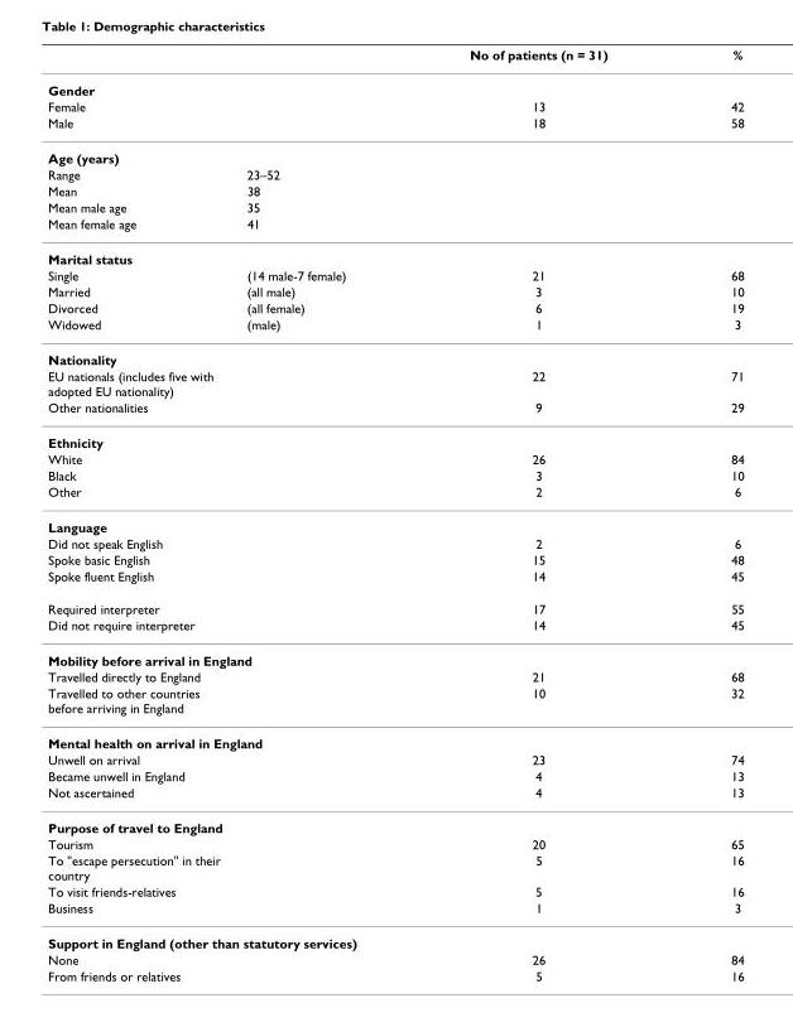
<table><thead><tr><td></td><td></td><td>No of patients (n = 31)</td><td>%</td></tr></thead><tbody><tr><td colspan="4">Gender</td></tr><tr><td>Female</td><td></td><td>13</td><td>42</td></tr><tr><td>Male</td><td></td><td>18</td><td>58</td></tr><tr><td colspan="4">Age (years)</td></tr><tr><td>Range</td><td>23–52</td><td></td><td></td></tr><tr><td>Mean</td><td>38</td><td></td><td></td></tr><tr><td>Mean male age</td><td>35</td><td></td><td></td></tr><tr><td>Mean female age</td><td>41</td><td></td><td></td></tr><tr><td colspan="4">Marital status</td></tr><tr><td>Single</td><td>(14 male-7 female)</td><td>21</td><td>68</td></tr><tr><td>Married</td><td>(all male)</td><td>3</td><td>10</td></tr><tr><td>Divorced</td><td>(all female)</td><td>6</td><td>19</td></tr><tr><td>Widowed</td><td>(male)</td><td>1</td><td>3</td></tr><tr><td colspan="4">Nationality</td></tr><tr><td>EU nationals (includes five with adopted EU nationality)</td><td></td><td>22</td><td>71</td></tr><tr><td>Other nationalities</td><td></td><td>9</td><td>29</td></tr><tr><td colspan="4">Ethnicity</td></tr><tr><td>White</td><td></td><td>26</td><td>84</td></tr><tr><td>Black</td><td></td><td>3</td><td>10</td></tr><tr><td>Other</td><td></td><td>2</td><td>6</td></tr><tr><td colspan="4">Language</td></tr><tr><td>Did not speak English</td><td></td><td>2</td><td>6</td></tr><tr><td>Spoke basic English</td><td></td><td>15</td><td>48</td></tr><tr><td>Spoke fluent English</td><td></td><td>14</td><td>45</td></tr><tr><td>Required interpreter</td><td></td><td>17</td><td>55</td></tr><tr><td>Did not require interpreter</td><td></td><td>14</td><td>45</td></tr><tr><td colspan="4">Mobility before arrival in England</td></tr><tr><td>Travelled directly to England</td><td></td><td>21</td><td>68</td></tr><tr><td>Travelled to other countries before arriving in England</td><td></td><td>10</td><td>32</td></tr><tr><td colspan="4">Mental health on arrival in England</td></tr><tr><td>Unwell on arrival</td><td></td><td>23</td><td>74</td></tr><tr><td>Became unwell in England</td><td></td><td>4</td><td>13</td></tr><tr><td>Not ascertained</td><td></td><td>4</td><td>13</td></tr><tr><td colspan="4">Purpose of travel to England</td></tr><tr><td>Tourism</td><td></td><td>20</td><td>65</td></tr><tr><td>To &quot;escape persecution&quot; in their country</td><td></td><td>5</td><td>16</td></tr><tr><td>To visit friends-relatives</td><td></td><td>5</td><td>16</td></tr><tr><td>Business</td><td></td><td>1</td><td>3</td></tr><tr><td colspan="4">Support in England (other than statutory services)</td></tr><tr><td>None</td><td></td><td>26</td><td>84</td></tr><tr><td>From friends or relatives</td><td></td><td>5</td><td>16</td></tr></tbody></table>